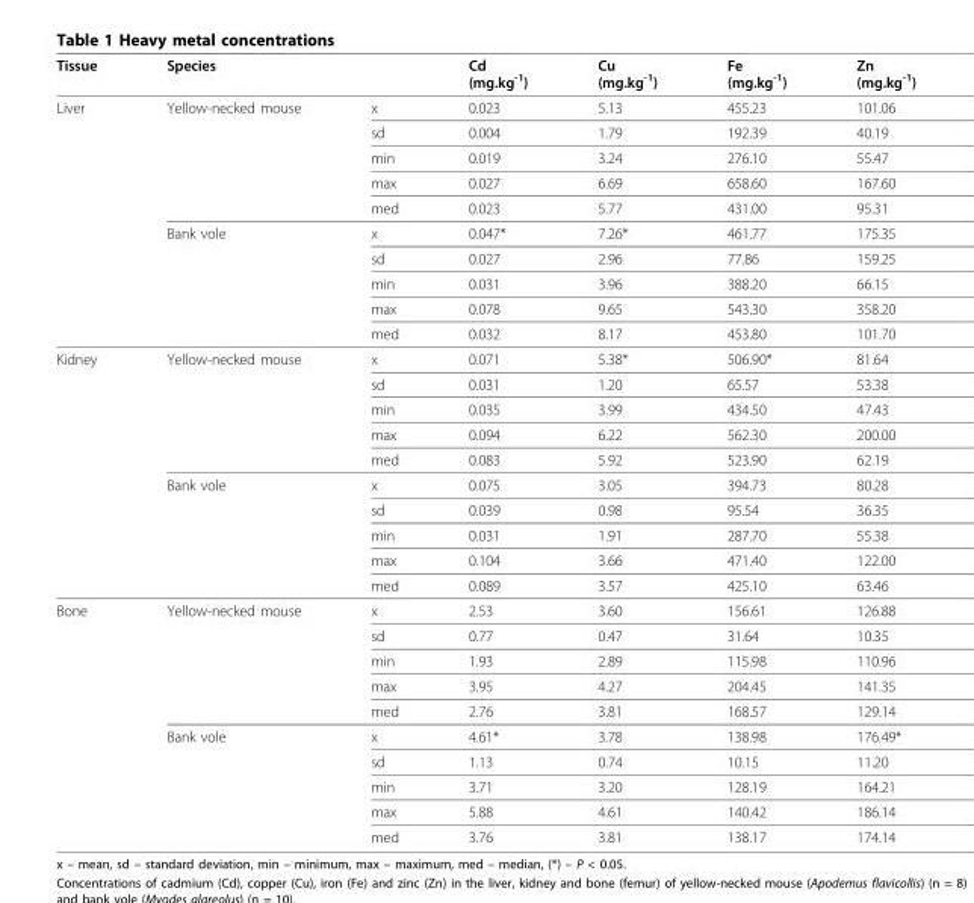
<table><thead><tr><td>Tissue</td><td>Species</td><td></td><td>Cd (mg.kg<sup>-1</sup>)</td><td>Cu (mg.kg<sup>-1</sup>)</td><td>Fe (mg.kg<sup>-1</sup>)</td><td>Zn (mg.kg<sup>-1</sup>)</td></tr></thead><tbody><tr><td rowspan="10">Liver</td><td>Yellow-necked mouse</td><td>x</td><td>0.023</td><td>5.13</td><td>455.23</td><td>101.06</td></tr><tr><td></td><td>sd</td><td>0.004</td><td>1.79</td><td>192.39</td><td>40.19</td></tr><tr><td></td><td>min</td><td>0.019</td><td>3.24</td><td>276.10</td><td>55.47</td></tr><tr><td></td><td>max</td><td>0.027</td><td>6.69</td><td>658.60</td><td>167.60</td></tr><tr><td></td><td>med</td><td>0.023</td><td>5.77</td><td>431.00</td><td>95.31</td></tr><tr><td>Bank vole</td><td>x</td><td>0.047*</td><td>7.26*</td><td>461.77</td><td>175.35</td></tr><tr><td></td><td>sd</td><td>0.027</td><td>2.96</td><td>77.86</td><td>159.25</td></tr><tr><td></td><td>min</td><td>0.031</td><td>3.96</td><td>388.20</td><td>66.15</td></tr><tr><td></td><td>max</td><td>0.078</td><td>9.65</td><td>543.30</td><td>358.20</td></tr><tr><td></td><td>med</td><td>0.032</td><td>8.17</td><td>453.80</td><td>101.70</td></tr><tr><td rowspan="10">Kidney</td><td>Yellow-necked mouse</td><td>x</td><td>0.071</td><td>5.38*</td><td>506.90*</td><td>81.64</td></tr><tr><td></td><td>sd</td><td>0.031</td><td>1.20</td><td>65.57</td><td>53.38</td></tr><tr><td></td><td>min</td><td>0.035</td><td>3.99</td><td>434.50</td><td>47.43</td></tr><tr><td></td><td>max</td><td>0.094</td><td>6.22</td><td>562.30</td><td>200.00</td></tr><tr><td></td><td>med</td><td>0.083</td><td>5.92</td><td>523.90</td><td>62.19</td></tr><tr><td>Bank vole</td><td>x</td><td>0.075</td><td>3.05</td><td>394.73</td><td>80.28</td></tr><tr><td></td><td>sd</td><td>0.039</td><td>0.98</td><td>95.54</td><td>36.35</td></tr><tr><td></td><td>min</td><td>0.031</td><td>1.91</td><td>287.70</td><td>55.38</td></tr><tr><td></td><td>max</td><td>0.104</td><td>3.66</td><td>471.40</td><td>122.00</td></tr><tr><td></td><td>med</td><td>0.089</td><td>3.57</td><td>425.10</td><td>63.46</td></tr><tr><td rowspan="10">Bone</td><td>Yellow-necked mouse</td><td>x</td><td>2.53</td><td>3.60</td><td>156.61</td><td>126.88</td></tr><tr><td></td><td>sd</td><td>0.77</td><td>0.47</td><td>31.64</td><td>10.35</td></tr><tr><td></td><td>min</td><td>1.93</td><td>2.89</td><td>115.98</td><td>110.96</td></tr><tr><td></td><td>max</td><td>3.95</td><td>4.27</td><td>204.45</td><td>141.35</td></tr><tr><td></td><td>med</td><td>2.76</td><td>3.81</td><td>168.57</td><td>129.14</td></tr><tr><td>Bank vole</td><td>x</td><td>4.61*</td><td>3.78</td><td>138.98</td><td>176.49*</td></tr><tr><td></td><td>sd</td><td>1.13</td><td>0.74</td><td>10.15</td><td>11.20</td></tr><tr><td></td><td>min</td><td>3.71</td><td>3.20</td><td>128.19</td><td>164.21</td></tr><tr><td></td><td>max</td><td>5.88</td><td>4.61</td><td>140.42</td><td>186.14</td></tr><tr><td></td><td>med</td><td>3.76</td><td>3.81</td><td>138.17</td><td>174.14</td></tr></tbody></table>